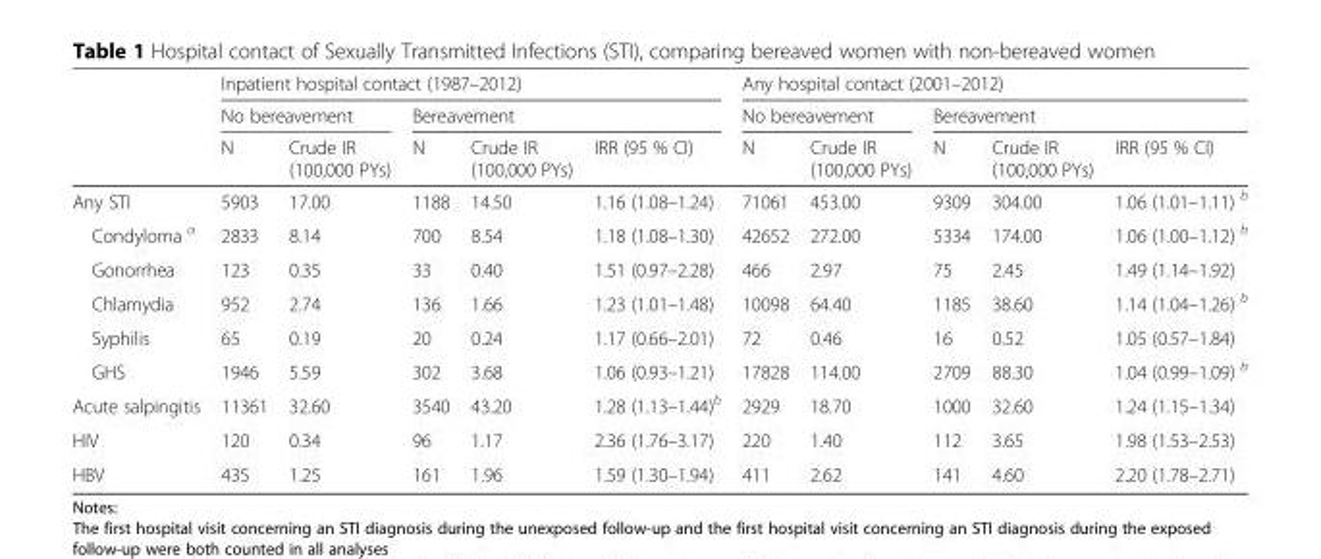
<table><thead><tr><td rowspan="3"></td><td colspan="5">Inpatient hospital contact (1987–2012)</td><td colspan="5">Any hospital contact (2001–2012)</td></tr><tr><td colspan="2">No bereavement</td><td colspan="3">Bereavement</td><td colspan="2">No bereavement</td><td colspan="3">Bereavement</td></tr><tr><td>N</td><td>Crude IR (100,000 PYs)</td><td>N</td><td>Crude IR (100,000 PYs)</td><td>IRR (95 % CI)</td><td>N</td><td>Crude IR (100,000 PYs)</td><td>N</td><td>Crude IR (100,000 PYs)</td><td>IRR (95 % CI)</td></tr></thead><tbody><tr><td>Any STI</td><td>5903</td><td>17.00</td><td>1188</td><td>14.50</td><td>1.16 (1.08–1.24)</td><td>71061</td><td>453.00</td><td>9309</td><td>304.00</td><td>1.06 (1.01–1.11) <sup>b</sup></td></tr><tr><td>Condyloma <sup>a</sup></td><td>2833</td><td>8.14</td><td>700</td><td>8.54</td><td>1.18 (1.08–1.30)</td><td>42652</td><td>272.00</td><td>5334</td><td>174.00</td><td>1.06 (1.00–1.12) <sup>b</sup></td></tr><tr><td>Gonorrhea</td><td>123</td><td>0.35</td><td>33</td><td>0.40</td><td>1.51 (0.97–2.28)</td><td>466</td><td>2.97</td><td>75</td><td>2.45</td><td>1.49 (1.14–1.92)</td></tr><tr><td>Chlamydia</td><td>952</td><td>2.74</td><td>136</td><td>1.66</td><td>1.23 (1.01–1.48)</td><td>10098</td><td>64.40</td><td>1185</td><td>38.60</td><td>1.14 (1.04–1.26) <sup>b</sup></td></tr><tr><td>Syphilis</td><td>65</td><td>0.19</td><td>20</td><td>0.24</td><td>1.17 (0.66–2.01)</td><td>72</td><td>0.46</td><td>16</td><td>0.52</td><td>1.05 (0.57–1.84)</td></tr><tr><td>GHS</td><td>1946</td><td>5.59</td><td>302</td><td>3.68</td><td>1.06 (0.93–1.21)</td><td>17828</td><td>114.00</td><td>2709</td><td>88.30</td><td>1.04 (0.99–1.09) <sup>b</sup></td></tr><tr><td>Acute salpingitis</td><td>11361</td><td>32.60</td><td>3540</td><td>43.20</td><td>1.28 (1.13–1.44)<sup>b</sup></td><td>2929</td><td>18.70</td><td>1000</td><td>32.60</td><td>1.24 (1.15–1.34)</td></tr><tr><td>HIV</td><td>120</td><td>0.34</td><td>96</td><td>1.17</td><td>2.36 (1.76–3.17)</td><td>220</td><td>1.40</td><td>112</td><td>3.65</td><td>1.98 (1.53–2.53)</td></tr><tr><td>HBV</td><td>435</td><td>1.25</td><td>161</td><td>1.96</td><td>1.59 (1.30–1.94)</td><td>411</td><td>2.62</td><td>141</td><td>4.60</td><td>2.20 (1.78–2.71)</td></tr></tbody></table>